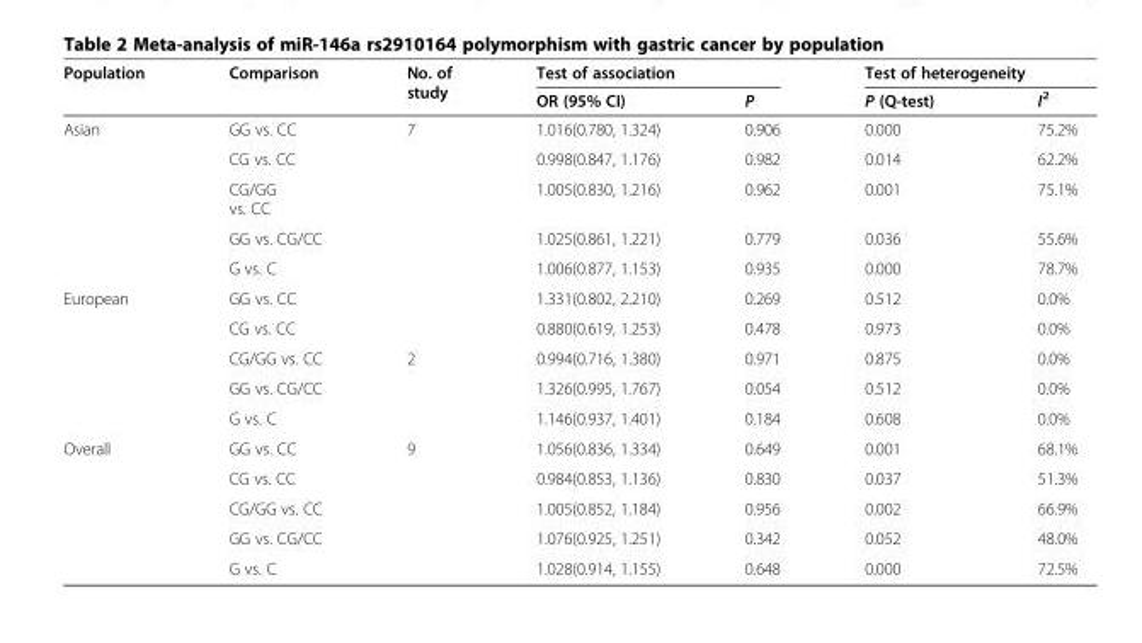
<table><thead><tr><td rowspan="2">Population</td><td rowspan="2">Comparison</td><td rowspan="2">No. of study</td><td colspan="2">Test of association</td><td colspan="2">Test of heterogeneity</td></tr><tr><td>OR (95% CI)</td><td>P</td><td>P (Q-test)</td><td>I<sup>2</sup></td></tr></thead><tbody><tr><td rowspan="5">Asian</td><td>GG vs. CC</td><td rowspan="5">7</td><td>1.016(0.780, 1.324)</td><td>0.906</td><td>0.000</td><td>75.2%</td></tr><tr><td>CG vs. CC</td><td>0.998(0.847, 1.176)</td><td>0.982</td><td>0.014</td><td>62.2%</td></tr><tr><td>CG/GG vs. CC</td><td>1.005(0.830, 1.216)</td><td>0.962</td><td>0.001</td><td>75.1%</td></tr><tr><td>GG vs. CG/CC</td><td>1.025(0.861, 1.221)</td><td>0.779</td><td>0.036</td><td>55.6%</td></tr><tr><td>G vs. C</td><td>1.006(0.877, 1.153)</td><td>0.935</td><td>0.000</td><td>78.7%</td></tr><tr><td rowspan="5">European</td><td>GG vs. CC</td><td rowspan="5">2</td><td>1.331(0.802, 2.210)</td><td>0.269</td><td>0.512</td><td>0.0%</td></tr><tr><td>CG vs. CC</td><td>0.880(0.619, 1.253)</td><td>0.478</td><td>0.973</td><td>0.0%</td></tr><tr><td>CG/GG vs. CC</td><td>0.994(0.716, 1.380)</td><td>0.971</td><td>0.875</td><td>0.0%</td></tr><tr><td>GG vs. CG/CC</td><td>1.326(0.995, 1.767)</td><td>0.054</td><td>0.512</td><td>0.0%</td></tr><tr><td>G vs. C</td><td>1.146(0.937, 1.401)</td><td>0.184</td><td>0.608</td><td>0.0%</td></tr><tr><td rowspan="5">Overall</td><td>GG vs. CC</td><td rowspan="5">9</td><td>1.056(0.836, 1.334)</td><td>0.649</td><td>0.001</td><td>68.1%</td></tr><tr><td>CG vs. CC</td><td>0.984(0.853, 1.136)</td><td>0.830</td><td>0.037</td><td>51.3%</td></tr><tr><td>CG/GG vs. CC</td><td>1.005(0.852, 1.184)</td><td>0.956</td><td>0.002</td><td>66.9%</td></tr><tr><td>GG vs. CG/CC</td><td>1.076(0.925, 1.251)</td><td>0.342</td><td>0.052</td><td>48.0%</td></tr><tr><td>G vs. C</td><td>1.028(0.914, 1.155)</td><td>0.648</td><td>0.000</td><td>72.5%</td></tr></tbody></table>